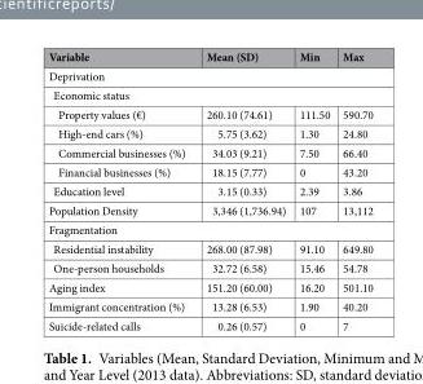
<table><thead><tr><td>Variable</td><td>Mean (SD)</td><td>Min</td><td>Max</td></tr></thead><tbody><tr><td colspan="4">Deprivation</td></tr><tr><td colspan="4">Economic status</td></tr><tr><td>Property values (€)</td><td>260.10 (74.61)</td><td>111.50</td><td>590.70</td></tr><tr><td>High-end cars (%)</td><td>5.75 (3.62)</td><td>1.30</td><td>24.80</td></tr><tr><td>Commercial businesses (%)</td><td>34.03 (9.21)</td><td>7.50</td><td>66.40</td></tr><tr><td>Financial businesses (%)</td><td>18.15 (7.77)</td><td>0</td><td>43.20</td></tr><tr><td>Education level</td><td>3.15 (0.33)</td><td>2.39</td><td>3.86</td></tr><tr><td>Population Density</td><td>3,346 (1,736.94)</td><td>107</td><td>13,112</td></tr><tr><td colspan="4">Fragmentation</td></tr><tr><td>Residential instability</td><td>268.00 (87.98)</td><td>91.10</td><td>649.80</td></tr><tr><td>One-person households</td><td>32.72 (6.58)</td><td>15.46</td><td>54.78</td></tr><tr><td>Aging index</td><td>151.20 (60.00)</td><td>16.20</td><td>501.10</td></tr><tr><td>Immigrant concentration (%)</td><td>13.28 (6.53)</td><td>1.90</td><td>40.20</td></tr><tr><td>Suicide-related calls</td><td>0.26 (0.57)</td><td>0</td><td>7</td></tr></tbody></table>